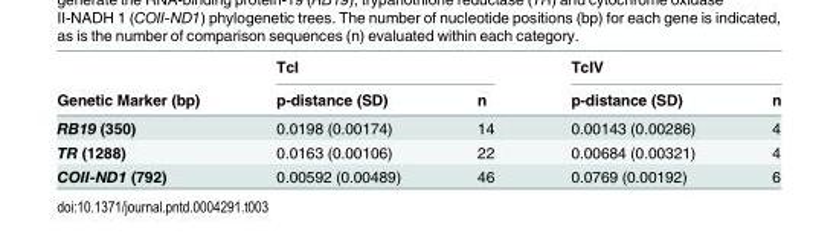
<table><thead><tr><td rowspan="2">Genetic Marker (bp)</td><td colspan="2">TcI</td><td colspan="2">TcIV</td></tr><tr><td>p-distance (SD)</td><td>n</td><td>p-distance (SD)</td><td>n</td></tr></thead><tbody><tr><td>RB19 (350)</td><td>0.0198 (0.00174)</td><td>14</td><td>0.00143 (0.00286)</td><td>4</td></tr><tr><td>TR (1288)</td><td>0.0163 (0.00106)</td><td>22</td><td>0.00684 (0.00321)</td><td>4</td></tr><tr><td>COII-ND1 (792)</td><td>0.00592 (0.00489)</td><td>46</td><td>0.0769 (0.00192)</td><td>6</td></tr></tbody></table>